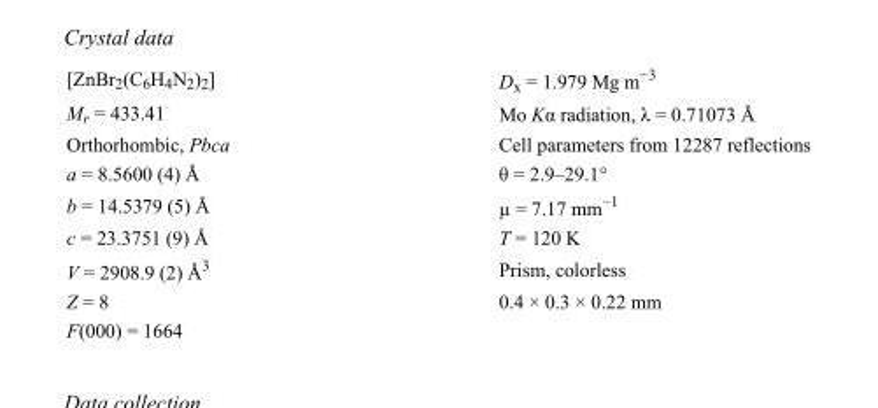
<table><tbody><tr><td>[ZnBr<sub>2</sub>(C<sub>6</sub>H<sub>4</sub>N<sub>2</sub>)<sub>2</sub>]</td><td>D<sub>x</sub> = 1.979 Mg m<sup>−3</sup></td></tr><tr><td>M<sub>r</sub> = 433.41</td><td>Mo Kα radiation, λ = 0.71073 Å</td></tr><tr><td>Orthorhombic, Pbca</td><td>Cell parameters from 12287 reflections</td></tr><tr><td>a = 8.5600 (4) Å</td><td>θ = 2.9–29.1°</td></tr><tr><td>b = 14.5379 (5) Å</td><td>µ = 7.17 mm<sup>−1</sup></td></tr><tr><td>c = 23.3751 (9) Å</td><td>T = 120 K</td></tr><tr><td>V = 2908.9 (2) Å<sup>3</sup></td><td>Prism, colorless</td></tr><tr><td>Z = 8</td><td>0.4 × 0.3 × 0.22 mm</td></tr><tr><td>F(000) = 1664</td><td></td></tr></tbody></table>